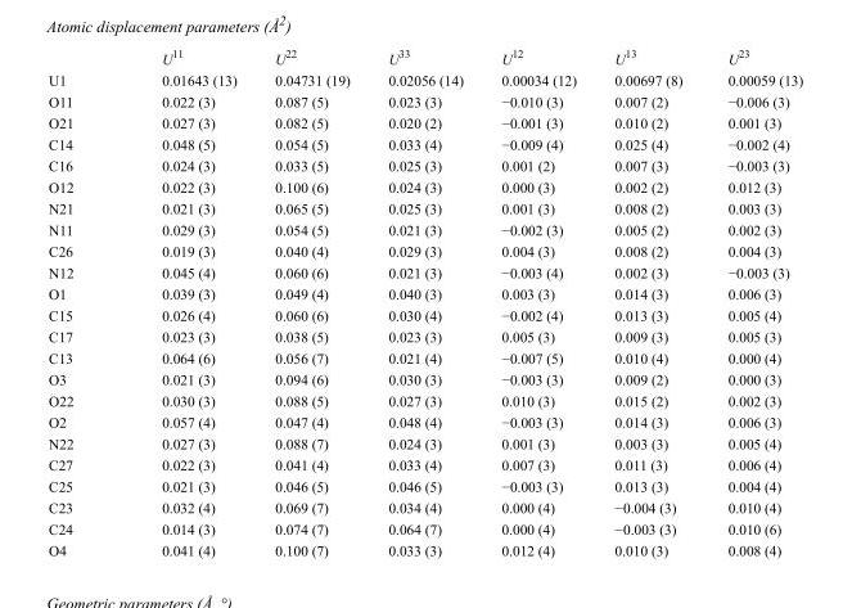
<table><thead><tr><td></td><td>U<sup>11</sup></td><td>U<sup>22</sup></td><td>U<sup>33</sup></td><td>U<sup>12</sup></td><td>U<sup>13</sup></td><td>U<sup>23</sup></td></tr></thead><tbody><tr><td>U1</td><td>0.01643 (13)</td><td>0.04731 (19)</td><td>0.02056 (14)</td><td>0.00034 (12)</td><td>0.00697 (8)</td><td>0.00059 (13)</td></tr><tr><td>O11</td><td>0.022 (3)</td><td>0.087 (5)</td><td>0.023 (3)</td><td>−0.010 (3)</td><td>0.007 (2)</td><td>−0.006 (3)</td></tr><tr><td>O21</td><td>0.027 (3)</td><td>0.082 (5)</td><td>0.020 (2)</td><td>−0.001 (3)</td><td>0.010 (2)</td><td>0.001 (3)</td></tr><tr><td>C14</td><td>0.048 (5)</td><td>0.054 (5)</td><td>0.033 (4)</td><td>−0.009 (4)</td><td>0.025 (4)</td><td>−0.002 (4)</td></tr><tr><td>C16</td><td>0.024 (3)</td><td>0.033 (5)</td><td>0.025 (3)</td><td>0.001 (2)</td><td>0.007 (3)</td><td>−0.003 (3)</td></tr><tr><td>O12</td><td>0.022 (3)</td><td>0.100 (6)</td><td>0.024 (3)</td><td>0.000 (3)</td><td>0.002 (2)</td><td>0.012 (3)</td></tr><tr><td>N21</td><td>0.021 (3)</td><td>0.065 (5)</td><td>0.025 (3)</td><td>0.001 (3)</td><td>0.008 (2)</td><td>0.003 (3)</td></tr><tr><td>N11</td><td>0.029 (3)</td><td>0.054 (5)</td><td>0.021 (3)</td><td>−0.002 (3)</td><td>0.005 (2)</td><td>0.002 (3)</td></tr><tr><td>C26</td><td>0.019 (3)</td><td>0.040 (4)</td><td>0.029 (3)</td><td>0.004 (3)</td><td>0.008 (2)</td><td>0.004 (3)</td></tr><tr><td>N12</td><td>0.045 (4)</td><td>0.060 (6)</td><td>0.021 (3)</td><td>−0.003 (4)</td><td>0.002 (3)</td><td>−0.003 (3)</td></tr><tr><td>O1</td><td>0.039 (3)</td><td>0.049 (4)</td><td>0.040 (3)</td><td>0.003 (3)</td><td>0.014 (3)</td><td>0.006 (3)</td></tr><tr><td>C15</td><td>0.026 (4)</td><td>0.060 (6)</td><td>0.030 (4)</td><td>−0.002 (4)</td><td>0.013 (3)</td><td>0.005 (4)</td></tr><tr><td>C17</td><td>0.023 (3)</td><td>0.038 (5)</td><td>0.023 (3)</td><td>0.005 (3)</td><td>0.009 (3)</td><td>0.005 (3)</td></tr><tr><td>C13</td><td>0.064 (6)</td><td>0.056 (7)</td><td>0.021 (4)</td><td>−0.007 (5)</td><td>0.010 (4)</td><td>0.000 (4)</td></tr><tr><td>O3</td><td>0.021 (3)</td><td>0.094 (6)</td><td>0.030 (3)</td><td>−0.003 (3)</td><td>0.009 (2)</td><td>0.000 (3)</td></tr><tr><td>O22</td><td>0.030 (3)</td><td>0.088 (5)</td><td>0.027 (3)</td><td>0.010 (3)</td><td>0.015 (2)</td><td>0.002 (3)</td></tr><tr><td>O2</td><td>0.057 (4)</td><td>0.047 (4)</td><td>0.048 (4)</td><td>−0.003 (3)</td><td>0.014 (3)</td><td>0.006 (3)</td></tr><tr><td>N22</td><td>0.027 (3)</td><td>0.088 (7)</td><td>0.024 (3)</td><td>0.001 (3)</td><td>0.003 (3)</td><td>0.005 (4)</td></tr><tr><td>C27</td><td>0.022 (3)</td><td>0.041 (4)</td><td>0.033 (4)</td><td>0.007 (3)</td><td>0.011 (3)</td><td>0.006 (4)</td></tr><tr><td>C25</td><td>0.021 (3)</td><td>0.046 (5)</td><td>0.046 (5)</td><td>−0.003 (3)</td><td>0.013 (3)</td><td>0.004 (4)</td></tr><tr><td>C23</td><td>0.032 (4)</td><td>0.069 (7)</td><td>0.034 (4)</td><td>0.000 (4)</td><td>−0.004 (3)</td><td>0.010 (4)</td></tr><tr><td>C24</td><td>0.014 (3)</td><td>0.074 (7)</td><td>0.064 (7)</td><td>0.000 (4)</td><td>−0.003 (3)</td><td>0.010 (6)</td></tr><tr><td>O4</td><td>0.041 (4)</td><td>0.100 (7)</td><td>0.033 (3)</td><td>0.012 (4)</td><td>0.010 (3)</td><td>0.008 (4)</td></tr></tbody></table>